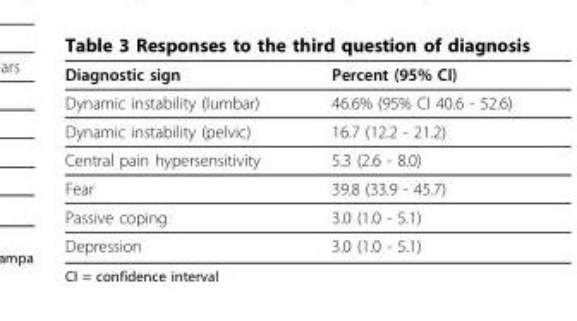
<table><thead><tr><td>Diagnostic sign</td><td>Percent (95% CI)</td></tr></thead><tbody><tr><td>Dynamic instability (lumbar)</td><td>46.6% (95% CI 40.6 - 52.6)</td></tr><tr><td>Dynamic instability (pelvic)</td><td>16.7 (12.2 - 21.2)</td></tr><tr><td>Central pain hypersensitivity</td><td>5.3 (2.6 - 8.0)</td></tr><tr><td>Fear</td><td>39.8 (33.9 - 45.7)</td></tr><tr><td>Passive coping</td><td>3.0 (1.0 - 5.1)</td></tr><tr><td>Depression</td><td>3.0 (1.0 - 5.1)</td></tr></tbody></table>